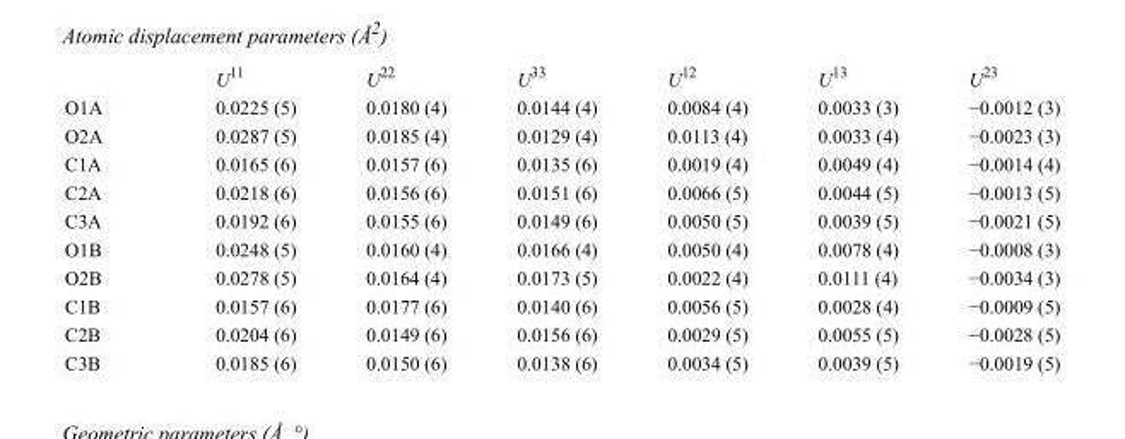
<table><thead><tr><td></td><td>U<sup>11</sup></td><td>U<sup>22</sup></td><td>U<sup>33</sup></td><td>U<sup>12</sup></td><td>U<sup>13</sup></td><td>U<sup>23</sup></td></tr></thead><tbody><tr><td>O1A</td><td>0.0225 (5)</td><td>0.0180 (4)</td><td>0.0144 (4)</td><td>0.0084 (4)</td><td>0.0033 (3)</td><td>−0.0012 (3)</td></tr><tr><td>O2A</td><td>0.0287 (5)</td><td>0.0185 (4)</td><td>0.0129 (4)</td><td>0.0113 (4)</td><td>0.0033 (4)</td><td>−0.0023 (3)</td></tr><tr><td>C1A</td><td>0.0165 (6)</td><td>0.0157 (6)</td><td>0.0135 (6)</td><td>0.0019 (4)</td><td>0.0049 (4)</td><td>−0.0014 (4)</td></tr><tr><td>C2A</td><td>0.0218 (6)</td><td>0.0156 (6)</td><td>0.0151 (6)</td><td>0.0066 (5)</td><td>0.0044 (5)</td><td>−0.0013 (5)</td></tr><tr><td>C3A</td><td>0.0192 (6)</td><td>0.0155 (6)</td><td>0.0149 (6)</td><td>0.0050 (5)</td><td>0.0039 (5)</td><td>−0.0021 (5)</td></tr><tr><td>O1B</td><td>0.0248 (5)</td><td>0.0160 (4)</td><td>0.0166 (4)</td><td>0.0050 (4)</td><td>0.0078 (4)</td><td>−0.0008 (3)</td></tr><tr><td>O2B</td><td>0.0278 (5)</td><td>0.0164 (4)</td><td>0.0173 (5)</td><td>0.0022 (4)</td><td>0.0111 (4)</td><td>−0.0034 (3)</td></tr><tr><td>C1B</td><td>0.0157 (6)</td><td>0.0177 (6)</td><td>0.0140 (6)</td><td>0.0056 (5)</td><td>0.0028 (4)</td><td>−0.0009 (5)</td></tr><tr><td>C2B</td><td>0.0204 (6)</td><td>0.0149 (6)</td><td>0.0156 (6)</td><td>0.0029 (5)</td><td>0.0055 (5)</td><td>−0.0028 (5)</td></tr><tr><td>C3B</td><td>0.0185 (6)</td><td>0.0150 (6)</td><td>0.0138 (6)</td><td>0.0034 (5)</td><td>0.0039 (5)</td><td>−0.0019 (5)</td></tr></tbody></table>